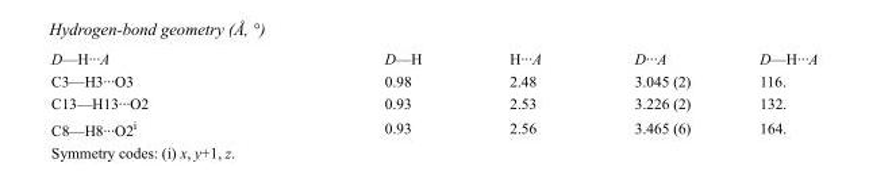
<table><tbody><tr><td>D—H···A</td><td>D—H</td><td>H···A</td><td>D···A</td><td>D—H···A</td></tr><tr><td>C3—H3···O3</td><td>0.98</td><td>2.48</td><td>3.045 (2)</td><td>116.</td></tr><tr><td>C13—H13···O2</td><td>0.93</td><td>2.53</td><td>3.226 (2)</td><td>132.</td></tr><tr><td>C8—H8···O2<sup>i</sup></td><td>0.93</td><td>2.56</td><td>3.465 (6)</td><td>164.</td></tr></tbody></table>